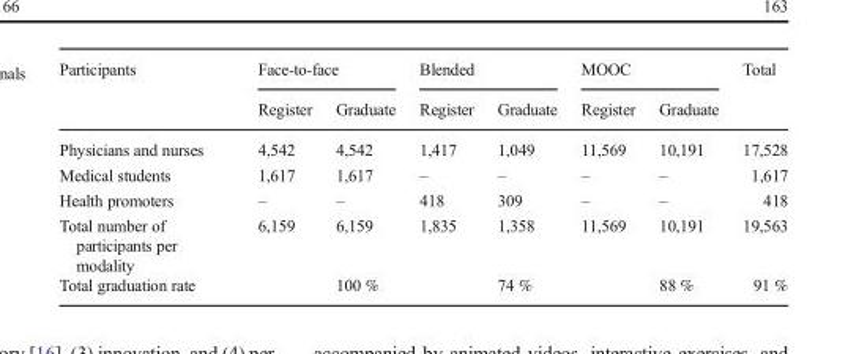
<table><thead><tr><td rowspan="2">Participants</td><td colspan="2">Face-to-face</td><td colspan="2">Blended</td><td colspan="2">MOOC</td><td rowspan="2">Total</td></tr><tr><td>Register</td><td>Graduate</td><td>Register</td><td>Graduate</td><td>Register</td><td>Graduate</td></tr></thead><tbody><tr><td>Physicians and nurses</td><td>4,542</td><td>4,542</td><td>1,417</td><td>1,049</td><td>11,569</td><td>10,191</td><td>17,528</td></tr><tr><td>Medical students</td><td>1,617</td><td>1,617</td><td>–</td><td>–</td><td>–</td><td>–</td><td>1,617</td></tr><tr><td>Health promoters</td><td>–</td><td>–</td><td>418</td><td>309</td><td>–</td><td>–</td><td>418</td></tr><tr><td>Total number of participants per modality</td><td>6,159</td><td>6,159</td><td>1,835</td><td>1,358</td><td>11,569</td><td>10,191</td><td>19,563</td></tr><tr><td>Total graduation rate</td><td></td><td>100 %</td><td></td><td>74 %</td><td></td><td>88 %</td><td>91 %</td></tr></tbody></table>